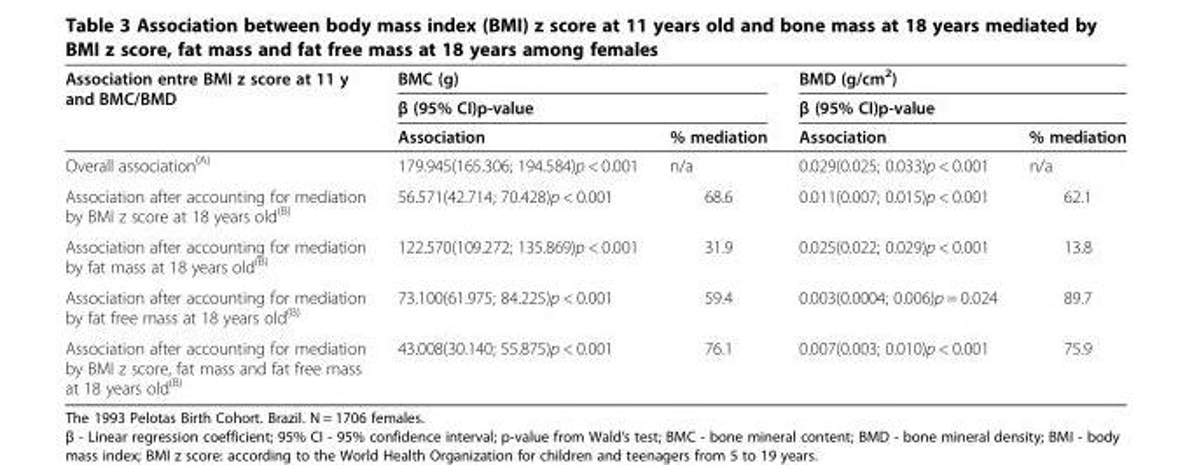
<table><thead><tr><td rowspan="3">Association entre BMI z score at 11 y and BMC/BMD</td><td rowspan="2" colspan="2">BMC (g) β (95% CI)p-value</td><td rowspan="2" colspan="2">BMD (g/cm<sup>2</sup>) β (95% CI)p-value</td></tr><tr></tr><tr><td>Association</td><td>% mediation</td><td>Association</td><td>% mediation</td></tr></thead><tbody><tr><td>Overall association<sup>(A)</sup></td><td>179.945(165.306; 194.584)p &lt; 0.001</td><td>n/a</td><td>0.029(0.025; 0.033)p &lt; 0.001</td><td>n/a</td></tr><tr><td>Association after accounting for mediation by BMI z score at 18 years old<sup>(B)</sup></td><td>56.571(42.714; 70.428)p &lt; 0.001</td><td>68.6</td><td>0.011(0.007; 0.015)p &lt; 0.001</td><td>62.1</td></tr><tr><td>Association after accounting for mediation by fat mass at 18 years old<sup>(B)</sup></td><td>122.570(109.272; 135.869)p &lt; 0.001</td><td>31.9</td><td>0.025(0.022; 0.029)p &lt; 0.001</td><td>13.8</td></tr><tr><td>Association after accounting for mediation by fat free mass at 18 years old<sup>(B)</sup></td><td>73.100(61.975; 84.225)p &lt; 0.001</td><td>59.4</td><td>0.003(0.0004; 0.006)p = 0.024</td><td>89.7</td></tr><tr><td>Association after accounting for mediation by BMI z score, fat mass and fat free mass at 18 years old<sup>(B)</sup></td><td>43.008(30.140; 55.875)p &lt; 0.001</td><td>76.1</td><td>0.007(0.003; 0.010)p &lt; 0.001</td><td>75.9</td></tr></tbody></table>